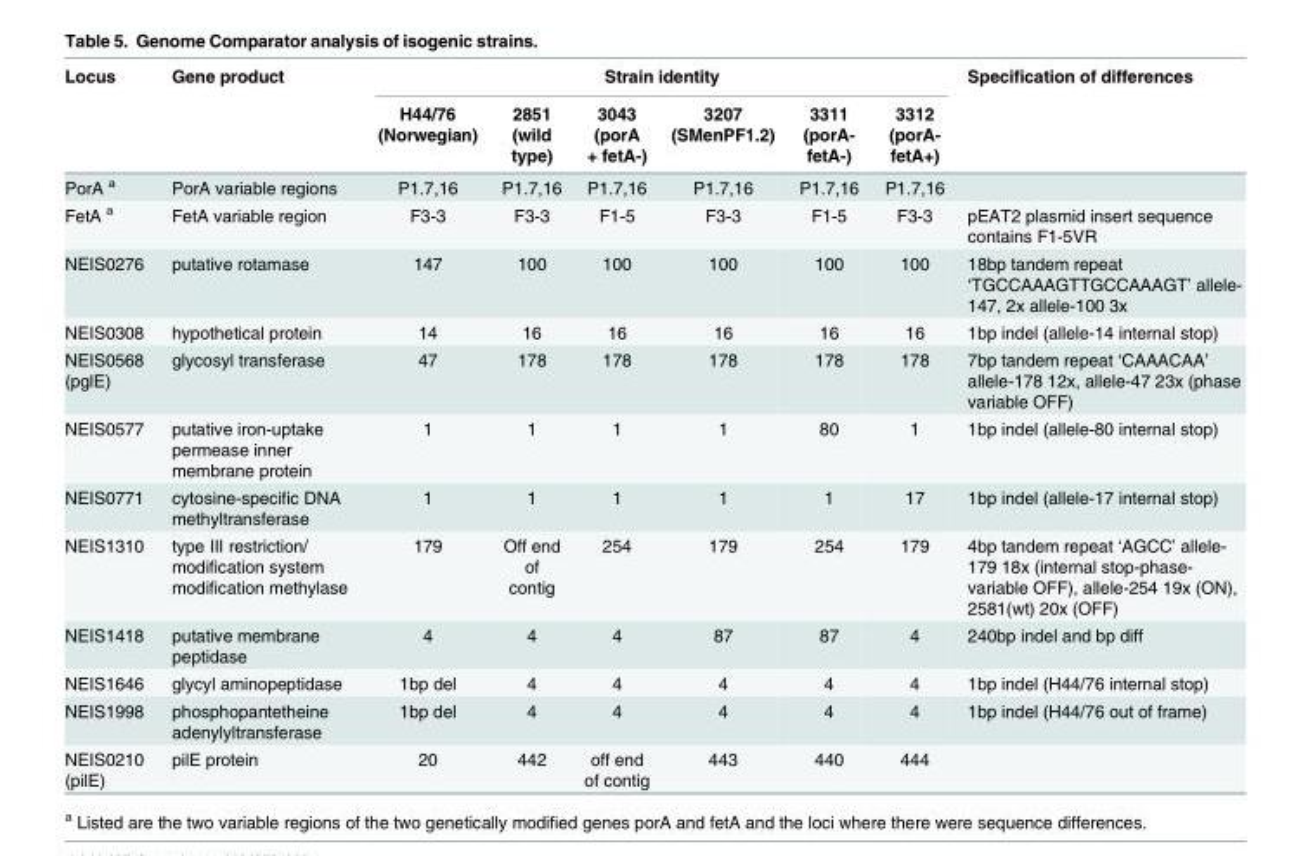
<table><thead><tr><td rowspan="2">Locus</td><td rowspan="2">Gene product</td><td colspan="6">Strain identity</td><td rowspan="2">Specification of differences</td></tr><tr><td>H44/76 (Norwegian)</td><td>2851 (wild type)</td><td>3043 (porA + fetA-)</td><td>3207 (SMenPF1.2)</td><td>3311 (porA- fetA-)</td><td>3312 (porA- fetA+)</td></tr></thead><tbody><tr><td>PorA <sup>a</sup></td><td>PorA variable regions</td><td>P1.7,16</td><td>P1.7,16</td><td>P1.7,16</td><td>P1.7,16</td><td>P1.7,16</td><td>P1.7,16</td><td></td></tr><tr><td>FetA <sup>a</sup></td><td>FetA variable region</td><td>F3-3</td><td>F3-3</td><td>F1-5</td><td>F3-3</td><td>F1-5</td><td>F3-3</td><td>pEAT2 plasmid insert sequence contains F1-5VR</td></tr><tr><td>NEIS0276</td><td>putative rotamase</td><td>147</td><td>100</td><td>100</td><td>100</td><td>100</td><td>100</td><td>18bp tandem repeat ‘TGCCAAAGTTGCCAAAGT’ allele- 147, 2x allele-100 3x</td></tr><tr><td>NEIS0308</td><td>hypothetical protein</td><td>14</td><td>16</td><td>16</td><td>16</td><td>16</td><td>16</td><td>1bp indel (allele-14 internal stop)</td></tr><tr><td>NEIS0568 (pglE)</td><td>glycosyl transferase</td><td>47</td><td>178</td><td>178</td><td>178</td><td>178</td><td>178</td><td>7bp tandem repeat ‘CAAACAA’ allele-178 12x, allele-47 23x (phase variable OFF)</td></tr><tr><td>NEIS0577</td><td>putative iron-uptake permease inner membrane protein</td><td>1</td><td>1</td><td>1</td><td>1</td><td>80</td><td>1</td><td>1bp indel (allele-80 internal stop)</td></tr><tr><td>NEIS0771</td><td>cytosine-specific DNA methyltransferase</td><td>1</td><td>1</td><td>1</td><td>1</td><td>1</td><td>17</td><td>1bp indel (allele-17 internal stop)</td></tr><tr><td>NEIS1310</td><td>type III restriction/ modification system modification methylase</td><td>179</td><td>Off end of contig</td><td>254</td><td>179</td><td>254</td><td>179</td><td>4bp tandem repeat ‘AGCC’ allele- 179 18x (internal stop-phase- variable OFF), allele-254 19x (ON), 2581(wt) 20x (OFF)</td></tr><tr><td>NEIS1418</td><td>putative membrane peptidase</td><td>4</td><td>4</td><td>4</td><td>87</td><td>87</td><td>4</td><td>240bp indel and bp diff</td></tr><tr><td>NEIS1646</td><td>glycyl aminopeptidase</td><td>1bp del</td><td>4</td><td>4</td><td>4</td><td>4</td><td>4</td><td>1bp indel (H44/76 internal stop)</td></tr><tr><td>NEIS1998</td><td>phosphopantetheine adenylyltransferase</td><td>1bp del</td><td>4</td><td>4</td><td>4</td><td>4</td><td>4</td><td>1bp indel (H44/76 out of frame)</td></tr><tr><td>NEIS0210 (pilE)</td><td>pilE protein</td><td>20</td><td>442</td><td>off end of contig</td><td>443</td><td>440</td><td>444</td><td></td></tr></tbody></table>